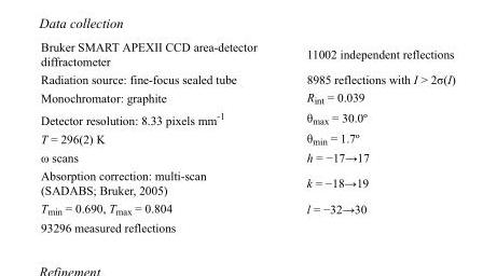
<table><tbody><tr><td>Bruker SMART APEXII CCD area-detector diffractometer</td><td>11002 independent reflections</td></tr><tr><td>Radiation source: fine-focus sealed tube</td><td>8985 reflections with I &gt; 2σ(I)</td></tr><tr><td>Monochromator: graphite</td><td>R<sub>int</sub> = 0.039</td></tr><tr><td>Detector resolution: 8.33 pixels mm<sup>-1</sup></td><td>θ<sub>max</sub> = 30.0º</td></tr><tr><td>T = 296(2) K</td><td>θ<sub>min</sub> = 1.7º</td></tr><tr><td>ω scans</td><td>h = −17→17</td></tr><tr><td>Absorption correction: multi-scan (SADABS; Bruker, 2005)</td><td>k = −18→19</td></tr><tr><td>T<sub>min</sub> = 0.690, T<sub>max</sub> = 0.804</td><td>l = −32→30</td></tr><tr><td>93296 measured reflections</td><td></td></tr></tbody></table>